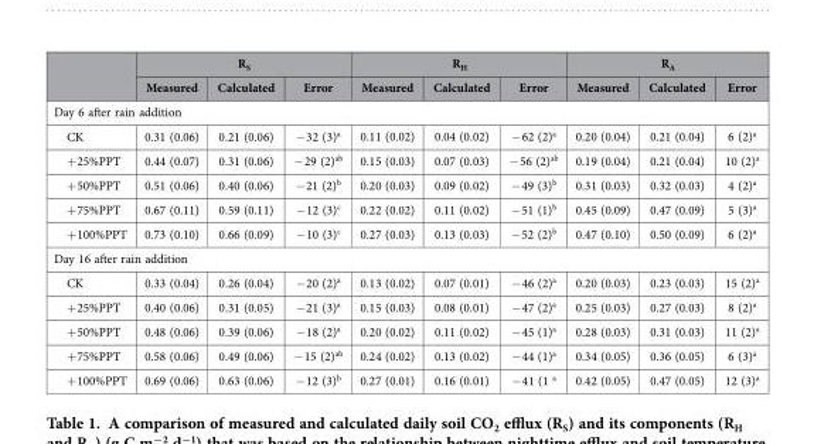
<table><thead><tr><td rowspan="2"></td><td colspan="3">R<sub>S</sub></td><td colspan="3">R<sub>H</sub></td><td colspan="3">R<sub>A</sub></td></tr><tr><td>Measured</td><td>Calculated</td><td>Error</td><td>Measured</td><td>Calculated</td><td>Error</td><td>Measured</td><td>Calculated</td><td>Error</td></tr></thead><tbody><tr><td colspan="10">Day 6 after rain addition</td></tr><tr><td>CK</td><td>0.31 (0.06)</td><td>0.21 (0.06)</td><td>− 32 (3)<sup>a</sup></td><td>0.11 (0.02)</td><td>0.04 (0.02)</td><td>− 62 (2)<sup>a</sup></td><td>0.20 (0.04)</td><td>0.21 (0.04)</td><td>6 (2)<sup>a</sup></td></tr><tr><td>+ 25%PPT</td><td>0.44 (0.07)</td><td>0.31 (0.06)</td><td>− 29 (2)<sup>ab</sup></td><td>0.15 (0.03)</td><td>0.07 (0.03)</td><td>− 56 (2)<sup>ab</sup></td><td>0.19 (0.04)</td><td>0.21 (0.04)</td><td>10 (2)<sup>a</sup></td></tr><tr><td>+ 50%PPT</td><td>0.51 (0.06)</td><td>0.40 (0.06)</td><td>− 21 (2)<sup>b</sup></td><td>0.20 (0.03)</td><td>0.09 (0.02)</td><td>− 49 (3)<sup>b</sup></td><td>0.31 (0.03)</td><td>0.32 (0.03)</td><td>4 (2)<sup>a</sup></td></tr><tr><td>+ 75%PPT</td><td>0.67 (0.11)</td><td>0.59 (0.11)</td><td>− 12 (3)<sup>c</sup></td><td>0.22 (0.02)</td><td>0.11 (0.02)</td><td>− 51 (1)<sup>b</sup></td><td>0.45 (0.09)</td><td>0.47 (0.09)</td><td>5 (3)<sup>a</sup></td></tr><tr><td>+ 100%PPT</td><td>0.73 (0.10)</td><td>0.66 (0.09)</td><td>− 10 (3)<sup>c</sup></td><td>0.27 (0.03)</td><td>0.13 (0.03)</td><td>− 52 (2)<sup>b</sup></td><td>0.47 (0.10)</td><td>0.50 (0.09)</td><td>6 (2)<sup>a</sup></td></tr><tr><td colspan="10">Day 16 after rain addition</td></tr><tr><td>CK</td><td>0.33 (0.04)</td><td>0.26 (0.04)</td><td>− 20 (2)<sup>a</sup></td><td>0.13 (0.02)</td><td>0.07 (0.01)</td><td>− 46 (2)<sup>a</sup></td><td>0.20 (0.03)</td><td>0.23 (0.03)</td><td>15 (2)<sup>a</sup></td></tr><tr><td>+ 25%PPT</td><td>0.40 (0.06)</td><td>0.31 (0.05)</td><td>− 21 (3)<sup>a</sup></td><td>0.15 (0.03)</td><td>0.08 (0.01)</td><td>− 47 (2)<sup>a</sup></td><td>0.25 (0.03)</td><td>0.27 (0.03)</td><td>8 (2)<sup>a</sup></td></tr><tr><td>+ 50%PPT</td><td>0.48 (0.06)</td><td>0.39 (0.06)</td><td>− 18 (2)<sup>a</sup></td><td>0.20 (0.02)</td><td>0.11 (0.02)</td><td>− 45 (1)<sup>a</sup></td><td>0.28 (0.03)</td><td>0.31 (0.03)</td><td>11 (2)<sup>a</sup></td></tr><tr><td>+ 75%PPT</td><td>0.58 (0.06)</td><td>0.49 (0.06)</td><td>− 15 (2)<sup>ab</sup></td><td>0.24 (0.02)</td><td>0.13 (0.02)</td><td>− 44 (1)<sup>a</sup></td><td>0.34 (0.05)</td><td>0.36 (0.05)</td><td>6 (3)<sup>a</sup></td></tr><tr><td>+ 100%PPT</td><td>0.69 (0.06)</td><td>0.63 (0.06)</td><td>− 12 (3)<sup>b</sup></td><td>0.27 (0.01)</td><td>0.16 (0.01)</td><td>− 41 (1 a</td><td>0.42 (0.05)</td><td>0.47 (0.05)</td><td>12 (3)<sup>a</sup></td></tr></tbody></table>